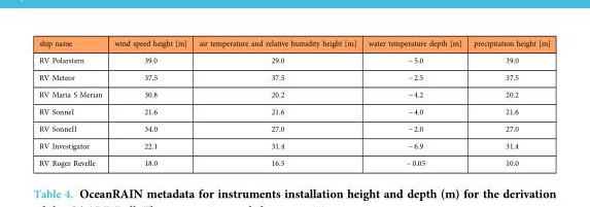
<table><thead><tr><td>ship name</td><td>wind speed height [m]</td><td>air temperature and relative humidity height [m]</td><td>water temperature depth [m]</td><td>precipitation height [m]</td></tr></thead><tbody><tr><td>RV Polarstern</td><td>39.0</td><td>29.0</td><td>− 5.0</td><td>39.0</td></tr><tr><td>RV Meteor</td><td>37.5</td><td>37.5</td><td>− 2.5</td><td>37.5</td></tr><tr><td>RV Maria S Merian</td><td>30.8</td><td>20.2</td><td>− 4.2</td><td>20.2</td></tr><tr><td>RV SonneI</td><td>21.6</td><td>21.6</td><td>− 4.0</td><td>21.6</td></tr><tr><td>RV SonneII</td><td>34.0</td><td>27.0</td><td>− 2.0</td><td>27.0</td></tr><tr><td>RV Investigator</td><td>22.1</td><td>31.4</td><td>− 6.9</td><td>31.4</td></tr><tr><td>RV Roger Revelle</td><td>18.0</td><td>16.5</td><td>− 0.05</td><td>10.0</td></tr></tbody></table>